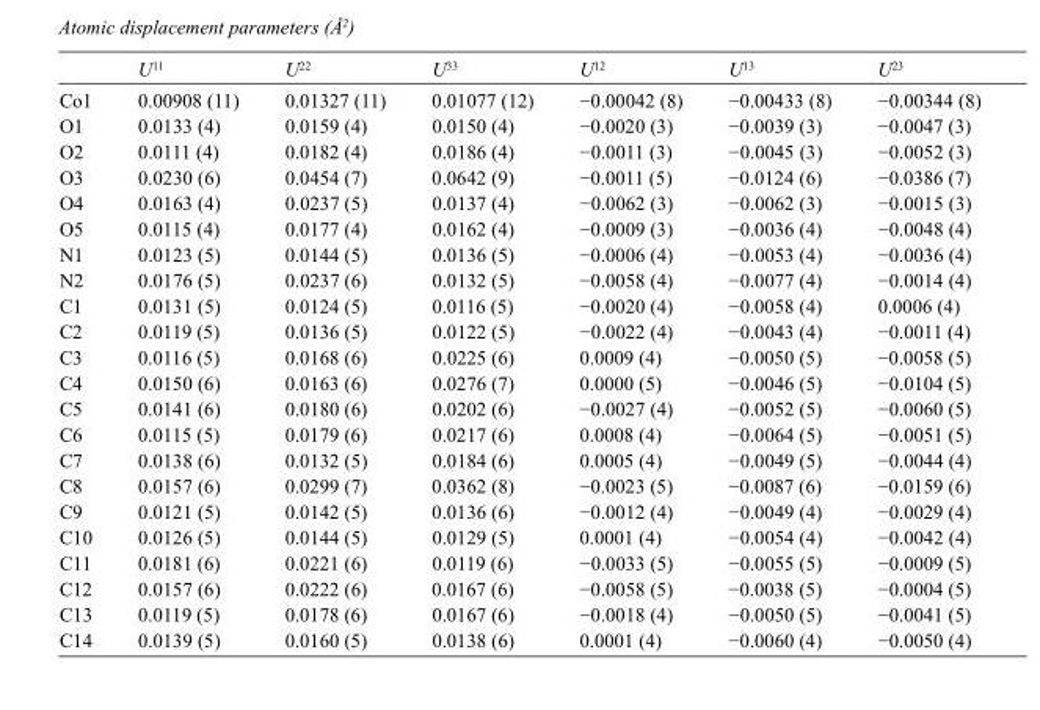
<table><thead><tr><td></td><td>U<sup>11</sup></td><td>U<sup>22</sup></td><td>U<sup>33</sup></td><td>U<sup>12</sup></td><td>U<sup>13</sup></td><td>U<sup>23</sup></td></tr></thead><tbody><tr><td>Co1</td><td>0.00908 (11)</td><td>0.01327 (11)</td><td>0.01077 (12)</td><td>−0.00042 (8)</td><td>−0.00433 (8)</td><td>−0.00344 (8)</td></tr><tr><td>O1</td><td>0.0133 (4)</td><td>0.0159 (4)</td><td>0.0150 (4)</td><td>−0.0020 (3)</td><td>−0.0039 (3)</td><td>−0.0047 (3)</td></tr><tr><td>O2</td><td>0.0111 (4)</td><td>0.0182 (4)</td><td>0.0186 (4)</td><td>−0.0011 (3)</td><td>−0.0045 (3)</td><td>−0.0052 (3)</td></tr><tr><td>O3</td><td>0.0230 (6)</td><td>0.0454 (7)</td><td>0.0642 (9)</td><td>−0.0011 (5)</td><td>−0.0124 (6)</td><td>−0.0386 (7)</td></tr><tr><td>O4</td><td>0.0163 (4)</td><td>0.0237 (5)</td><td>0.0137 (4)</td><td>−0.0062 (3)</td><td>−0.0062 (3)</td><td>−0.0015 (3)</td></tr><tr><td>O5</td><td>0.0115 (4)</td><td>0.0177 (4)</td><td>0.0162 (4)</td><td>−0.0009 (3)</td><td>−0.0036 (4)</td><td>−0.0048 (4)</td></tr><tr><td>N1</td><td>0.0123 (5)</td><td>0.0144 (5)</td><td>0.0136 (5)</td><td>−0.0006 (4)</td><td>−0.0053 (4)</td><td>−0.0036 (4)</td></tr><tr><td>N2</td><td>0.0176 (5)</td><td>0.0237 (6)</td><td>0.0132 (5)</td><td>−0.0058 (4)</td><td>−0.0077 (4)</td><td>−0.0014 (4)</td></tr><tr><td>C1</td><td>0.0131 (5)</td><td>0.0124 (5)</td><td>0.0116 (5)</td><td>−0.0020 (4)</td><td>−0.0058 (4)</td><td>0.0006 (4)</td></tr><tr><td>C2</td><td>0.0119 (5)</td><td>0.0136 (5)</td><td>0.0122 (5)</td><td>−0.0022 (4)</td><td>−0.0043 (4)</td><td>−0.0011 (4)</td></tr><tr><td>C3</td><td>0.0116 (5)</td><td>0.0168 (6)</td><td>0.0225 (6)</td><td>0.0009 (4)</td><td>−0.0050 (5)</td><td>−0.0058 (5)</td></tr><tr><td>C4</td><td>0.0150 (6)</td><td>0.0163 (6)</td><td>0.0276 (7)</td><td>0.0000 (5)</td><td>−0.0046 (5)</td><td>−0.0104 (5)</td></tr><tr><td>C5</td><td>0.0141 (6)</td><td>0.0180 (6)</td><td>0.0202 (6)</td><td>−0.0027 (4)</td><td>−0.0052 (5)</td><td>−0.0060 (5)</td></tr><tr><td>C6</td><td>0.0115 (5)</td><td>0.0179 (6)</td><td>0.0217 (6)</td><td>0.0008 (4)</td><td>−0.0064 (5)</td><td>−0.0051 (5)</td></tr><tr><td>C7</td><td>0.0138 (6)</td><td>0.0132 (5)</td><td>0.0184 (6)</td><td>0.0005 (4)</td><td>−0.0049 (5)</td><td>−0.0044 (4)</td></tr><tr><td>C8</td><td>0.0157 (6)</td><td>0.0299 (7)</td><td>0.0362 (8)</td><td>−0.0023 (5)</td><td>−0.0087 (6)</td><td>−0.0159 (6)</td></tr><tr><td>C9</td><td>0.0121 (5)</td><td>0.0142 (5)</td><td>0.0136 (6)</td><td>−0.0012 (4)</td><td>−0.0049 (4)</td><td>−0.0029 (4)</td></tr><tr><td>C10</td><td>0.0126 (5)</td><td>0.0144 (5)</td><td>0.0129 (5)</td><td>0.0001 (4)</td><td>−0.0054 (4)</td><td>−0.0042 (4)</td></tr><tr><td>C11</td><td>0.0181 (6)</td><td>0.0221 (6)</td><td>0.0119 (6)</td><td>−0.0033 (5)</td><td>−0.0055 (5)</td><td>−0.0009 (5)</td></tr><tr><td>C12</td><td>0.0157 (6)</td><td>0.0222 (6)</td><td>0.0167 (6)</td><td>−0.0058 (5)</td><td>−0.0038 (5)</td><td>−0.0004 (5)</td></tr><tr><td>C13</td><td>0.0119 (5)</td><td>0.0178 (6)</td><td>0.0167 (6)</td><td>−0.0018 (4)</td><td>−0.0050 (5)</td><td>−0.0041 (5)</td></tr><tr><td>C14</td><td>0.0139 (5)</td><td>0.0160 (5)</td><td>0.0138 (6)</td><td>0.0001 (4)</td><td>−0.0060 (4)</td><td>−0.0050 (4)</td></tr></tbody></table>